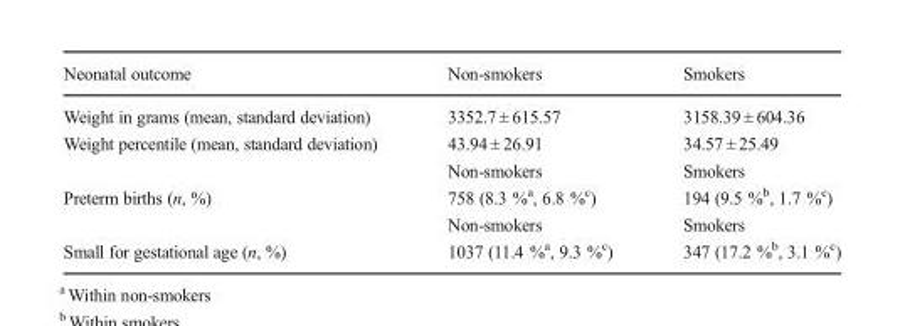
<table><thead><tr><td>Neonatal outcome</td><td>Non-smokers</td><td>Smokers</td></tr></thead><tbody><tr><td>Weight in grams (mean, standard deviation)</td><td>3352.7 ± 615.57</td><td>3158.39 ± 604.36</td></tr><tr><td rowspan="2">Weight percentile (mean, standard deviation)</td><td>43.94 ± 26.91</td><td>34.57 ± 25.49</td></tr><tr><td>Non-smokers</td><td>Smokers</td></tr><tr><td rowspan="2">Preterm births (n, %)</td><td>758 (8.3 %<sup>a</sup>, 6.8 %<sup>c</sup>)</td><td>194 (9.5 %<sup>b</sup>, 1.7 %<sup>c</sup>)</td></tr><tr><td>Non-smokers</td><td>Smokers</td></tr><tr><td>Small for gestational age (n, %)</td><td>1037 (11.4 %<sup>a</sup>, 9.3 %<sup>c</sup>)</td><td>347 (17.2 %<sup>b</sup>, 3.1 %<sup>c</sup>)</td></tr></tbody></table>